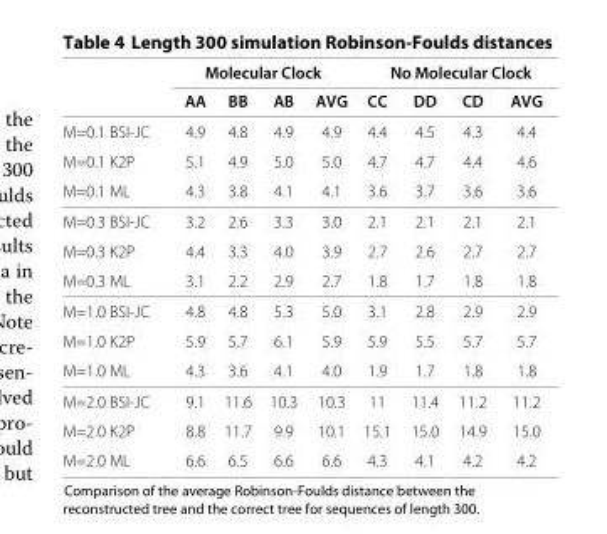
<table><thead><tr><td rowspan="2"></td><td colspan="4">Molecular Clock</td><td colspan="4">No Molecular Clock</td></tr><tr><td>AA</td><td>BB</td><td>AB</td><td>AVG</td><td>CC</td><td>DD</td><td>CD</td><td>AVG</td></tr></thead><tbody><tr><td>M=0.1 BSI-JC</td><td>4.9</td><td>4.8</td><td>4.9</td><td>4.9</td><td>4.4</td><td>4.5</td><td>4.3</td><td>4.4</td></tr><tr><td>M=0.1 K2P</td><td>5.1</td><td>4.9</td><td>5.0</td><td>5.0</td><td>4.7</td><td>4.7</td><td>4.4</td><td>4.6</td></tr><tr><td>M=0.1 ML</td><td>4.3</td><td>3.8</td><td>4.1</td><td>4.1</td><td>3.6</td><td>3.7</td><td>3.6</td><td>3.6</td></tr><tr><td>M=0.3 BSI-JC</td><td>3.2</td><td>2.6</td><td>3.3</td><td>3.0</td><td>2.1</td><td>2.1</td><td>2.1</td><td>2.1</td></tr><tr><td>M=0.3 K2P</td><td>4.4</td><td>3.3</td><td>4.0</td><td>3.9</td><td>2.7</td><td>2.6</td><td>2.7</td><td>2.7</td></tr><tr><td>M=0.3 ML</td><td>3.1</td><td>2.2</td><td>2.9</td><td>2.7</td><td>1.8</td><td>1.7</td><td>1.8</td><td>1.8</td></tr><tr><td>M=1.0 BSI-JC</td><td>4.8</td><td>4.8</td><td>5.3</td><td>5.0</td><td>3.1</td><td>2.8</td><td>2.9</td><td>2.9</td></tr><tr><td>M=1.0 K2P</td><td>5.9</td><td>5.7</td><td>6.1</td><td>5.9</td><td>5.9</td><td>5.5</td><td>5.7</td><td>5.7</td></tr><tr><td>M=1.0 ML</td><td>4.3</td><td>3.6</td><td>4.1</td><td>4.0</td><td>1.9</td><td>1.7</td><td>1.8</td><td>1.8</td></tr><tr><td>M=2.0 BSI-JC</td><td>9.1</td><td>11.6</td><td>10.3</td><td>10.3</td><td>11</td><td>11.4</td><td>11.2</td><td>11.2</td></tr><tr><td>M=2.0 K2P</td><td>8.8</td><td>11.7</td><td>9.9</td><td>10.1</td><td>15.1</td><td>15.0</td><td>14.9</td><td>15.0</td></tr><tr><td>M=2.0 ML</td><td>6.6</td><td>6.5</td><td>6.6</td><td>6.6</td><td>4.3</td><td>4.1</td><td>4.2</td><td>4.2</td></tr></tbody></table>